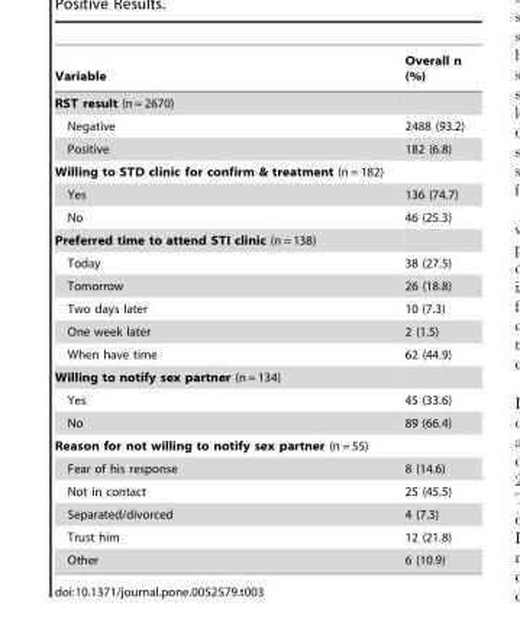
<table><thead><tr><td>Variable</td><td>Overall n (%)</td></tr></thead><tbody><tr><td colspan="2">RST result (n = 2670)</td></tr><tr><td>Negative</td><td>2488 (93.2)</td></tr><tr><td>Positive</td><td>182 (6.8)</td></tr><tr><td colspan="2">Willing to STD clinic for confirm &amp; treatment (n = 182)</td></tr><tr><td>Yes</td><td>136 (74.7)</td></tr><tr><td>No</td><td>46 (25.3)</td></tr><tr><td colspan="2">Preferred time to attend STI clinic (n = 138)</td></tr><tr><td>Today</td><td>38 (27.5)</td></tr><tr><td>Tomorrow</td><td>26 (18.8)</td></tr><tr><td>Two days later</td><td>10 (7.3)</td></tr><tr><td>One week later</td><td>2 (1.5)</td></tr><tr><td>When have time</td><td>62 (44.9)</td></tr><tr><td colspan="2">Willing to notify sex partner (n = 134)</td></tr><tr><td>Yes</td><td>45 (33.6)</td></tr><tr><td>No</td><td>89 (66.4)</td></tr><tr><td colspan="2">Reason for not willing to notify sex partner (n = 55)</td></tr><tr><td>Fear of his response</td><td>8 (14.6)</td></tr><tr><td>Not in contact</td><td>25 (45.5)</td></tr><tr><td>Separated/divorced</td><td>4 (7.3)</td></tr><tr><td>Trust him</td><td>12 (21.8)</td></tr><tr><td>Other</td><td>6 (10.9)</td></tr></tbody></table>